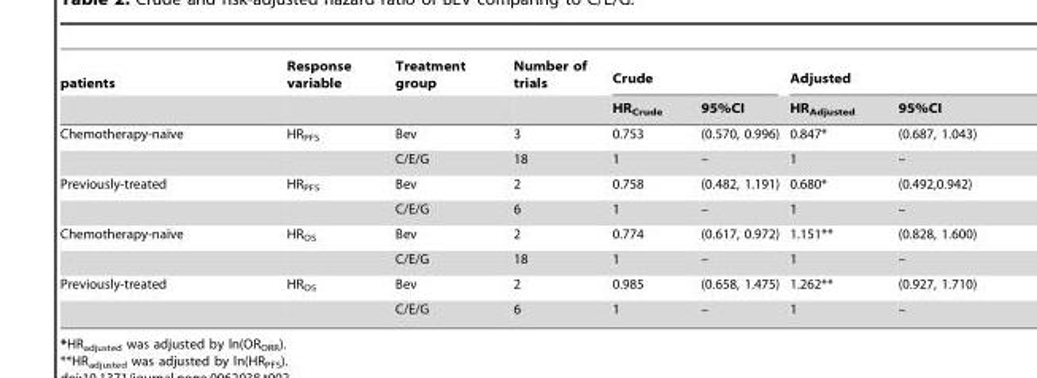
<table><thead><tr><td rowspan="2">patients</td><td rowspan="2">Response variable</td><td rowspan="2">Treatment group</td><td rowspan="2">Number of trials</td><td colspan="2">Crude</td><td colspan="2">Adjusted</td></tr><tr><td>HR<sub>Crude</sub></td><td>95%CI</td><td>HR<sub>Adjusted</sub></td><td>95%CI</td></tr></thead><tbody><tr><td rowspan="2">Chemotherapy-naı¨ve</td><td>HR<sub>PFS</sub></td><td>Bev</td><td>3</td><td>0.753</td><td>(0.570, 0.996)</td><td>0.847*</td><td>(0.687, 1.043)</td></tr><tr><td></td><td>C/E/G</td><td>18</td><td>1</td><td>–</td><td>1</td><td>–</td></tr><tr><td rowspan="2">Previously-treated</td><td>HR<sub>PFS</sub></td><td>Bev</td><td>2</td><td>0.758</td><td>(0.482, 1.191)</td><td>0.680*</td><td>(0.492,0.942)</td></tr><tr><td></td><td>C/E/G</td><td>6</td><td>1</td><td>–</td><td>1</td><td>–</td></tr><tr><td rowspan="2">Chemotherapy-naı¨ve</td><td>HR<sub>OS</sub></td><td>Bev</td><td>2</td><td>0.774</td><td>(0.617, 0.972)</td><td>1.151**</td><td>(0.828, 1.600)</td></tr><tr><td></td><td>C/E/G</td><td>18</td><td>1</td><td>–</td><td>1</td><td>–</td></tr><tr><td rowspan="2">Previously-treated</td><td>HR<sub>OS</sub></td><td>Bev</td><td>2</td><td>0.985</td><td>(0.658, 1.475)</td><td>1.262**</td><td>(0.927, 1.710)</td></tr><tr><td></td><td>C/E/G</td><td>6</td><td>1</td><td>–</td><td>1</td><td>–</td></tr></tbody></table>